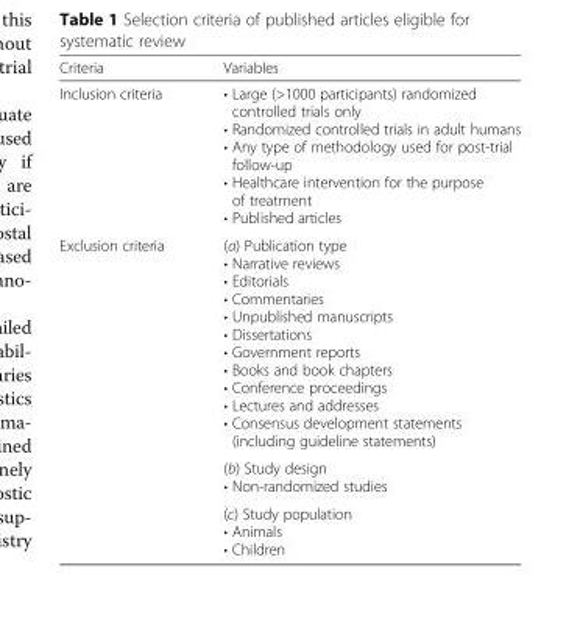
<table><thead><tr><td>Criteria</td><td>Variables</td></tr></thead><tbody><tr><td>Inclusion criteria</td><td>• Large (&gt;1000 participants) randomized controlled trials only • Randomized controlled trials in adult humans • Any type of methodology used for post-trial follow-up • Healthcare intervention for the purpose of treatment • Published articles</td></tr><tr><td rowspan="3">Exclusion criteria</td><td>(a) Publication type • Narrative reviews • Editorials • Commentaries • Unpublished manuscripts • Dissertations • Government reports • Books and book chapters • Conference proceedings • Lectures and addresses • Consensus development statements (including guideline statements)</td></tr><tr><td>(b) Study design • Non-randomized studies</td></tr><tr><td>(c) Study population • Animals • Children</td></tr></tbody></table>